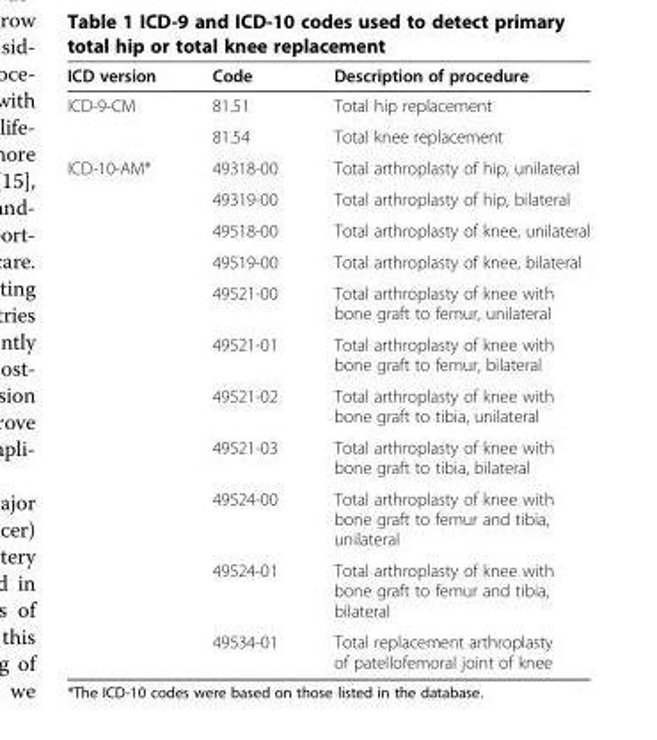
<table><thead><tr><td>ICD version</td><td>Code</td><td>Description of procedure</td></tr></thead><tbody><tr><td rowspan="2">ICD-9-CM</td><td>81.51</td><td>Total hip replacement</td></tr><tr><td>81.54</td><td>Total knee replacement</td></tr><tr><td rowspan="11">ICD-10-AM*</td><td>49318-00</td><td>Total arthroplasty of hip, unilateral</td></tr><tr><td>49319-00</td><td>Total arthroplasty of hip, bilateral</td></tr><tr><td>49518-00</td><td>Total arthroplasty of knee, unilateral</td></tr><tr><td>49519-00</td><td>Total arthroplasty of knee, bilateral</td></tr><tr><td>49521-00</td><td>Total arthroplasty of knee with bone graft to femur, unilateral</td></tr><tr><td>49521-01</td><td>Total arthroplasty of knee with bone graft to femur, bilateral</td></tr><tr><td>49521-02</td><td>Total arthroplasty of knee with bone graft to tibia, unilateral</td></tr><tr><td>49521-03</td><td>Total arthroplasty of knee with bone graft to tibia, bilateral</td></tr><tr><td>49524-00</td><td>Total arthroplasty of knee with bone graft to femur and tibia, unilateral</td></tr><tr><td>49524-01</td><td>Total arthroplasty of knee with bone graft to femur and tibia, bilateral</td></tr><tr><td>49534-01</td><td>Total replacement arthroplasty of patellofemoral joint of knee</td></tr></tbody></table>